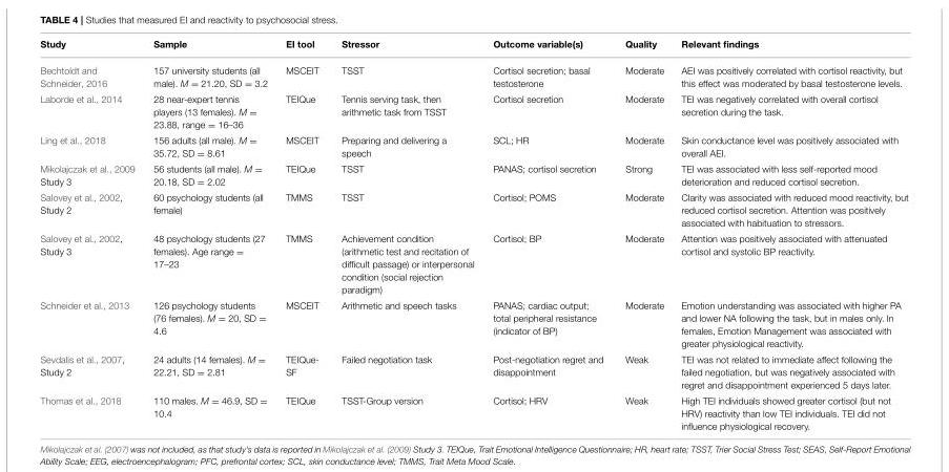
<table><thead><tr><td>Study</td><td>Sample</td><td>EI tool</td><td>Stressor</td><td>Outcome variable(s)</td><td>Quality</td><td>Relevant findings</td></tr></thead><tbody><tr><td>Bechtoldt and Schneider, 2016</td><td>157 university students (all male). M = 21.20, SD = 3.2</td><td>MSCEIT</td><td>TSST</td><td>Cortisol secretion; basal testosterone</td><td>Moderate</td><td>AEI was positively correlated with cortisol reactivity, but this effect was moderated by basal testosterone levels.</td></tr><tr><td>Laborde et al., 2014</td><td>28 near-expert tennis players (13 females). M = 23.88, range = 16–36</td><td>TEIQue</td><td>Tennis serving task, then arithmetic task from TSST</td><td>Cortisol secretion</td><td>Moderate</td><td>TEI was negatively correlated with overall cortisol secretion during the task.</td></tr><tr><td>Ling et al., 2018</td><td>156 adults (all male). M = 35.72, SD = 8.61</td><td>MSCEIT</td><td>Preparing and delivering a speech</td><td>SCL; HR</td><td>Moderate</td><td>Skin conductance level was positively associated with overall AEI.</td></tr><tr><td>Mikolajczak et al., 2009 Study 3</td><td>56 students (all male). M = 20.18, SD = 2.02</td><td>TEIQue</td><td>TSST</td><td>PANAS; cortisol secretion</td><td>Strong</td><td>TEI was associated with less self-reported mood deterioration and reduced cortisol secretion.</td></tr><tr><td>Salovey et al., 2002, Study 2</td><td>60 psychology students (all female)</td><td>TMMS</td><td>TSST</td><td>Cortisol; POMS</td><td>Moderate</td><td>Clarity was associated with reduced mood reactivity, but reduced cortisol secretion. Attention was positively associated with habituation to stressors.</td></tr><tr><td>Salovey et al., 2002, Study 3</td><td>48 psychology students (27 females). Age range = 17–23</td><td>TMMS</td><td>Achievement condition (arithmetic test and recitation of difficult passage) or interpersonal condition (social rejection paradigm)</td><td>Cortisol; BP</td><td>Moderate</td><td>Attention was positively associated with attenuated cortisol and systolic BP reactivity.</td></tr><tr><td>Schneider et al., 2013</td><td>126 psychology students (76 females). M = 20, SD = 4.6</td><td>MSCEIT</td><td>Arithmetic and speech tasks</td><td>PANAS; cardiac output; total peripheral resistance (indicator of BP)</td><td>Moderate</td><td>Emotion understanding was associated with higher PA and lower NA following the task, but in males only. In females, Emotion Management was associated with greater physiological reactivity.</td></tr><tr><td>Sevdalis et al., 2007, Study 2</td><td>24 adults (14 females). M = 22.21, SD = 2.81</td><td>TEIQue- SF</td><td>Failed negotiation task</td><td>Post-negotiation regret and disappointment</td><td>Weak</td><td>TEI was not related to immediate affect following the failed negotiation, but was negatively associated with regret and disappointment experienced 5 days later.</td></tr><tr><td>Thomas et al., 2018</td><td>110 males. M = 46.9, SD = 10.4</td><td>TEIQue</td><td>TSST-Group version</td><td>Cortisol; HRV</td><td>Weak</td><td>High TEI individuals showed greater cortisol (but not HRV) reactivity than low TEI individuals. TEI did not influence physiological recovery.</td></tr></tbody></table>